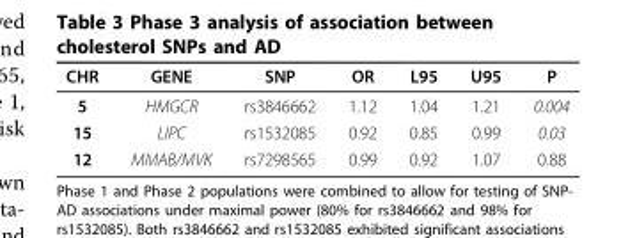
<table><thead><tr><td>CHR</td><td>GENE</td><td>SNP</td><td>OR</td><td>L95</td><td>U95</td><td>P</td></tr></thead><tbody><tr><td>5</td><td>HMGCR</td><td>rs3846662</td><td>1.12</td><td>1.04</td><td>1.21</td><td>0.004</td></tr><tr><td>15</td><td>LIPC</td><td>rs1532085</td><td>0.92</td><td>0.85</td><td>0.99</td><td>0.03</td></tr><tr><td>12</td><td>MMAB/MVK</td><td>rs7298565</td><td>0.99</td><td>0.92</td><td>1.07</td><td>0.88</td></tr></tbody></table>